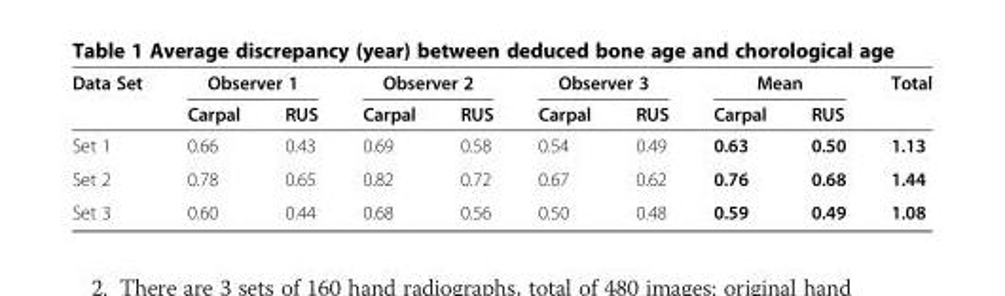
<table><thead><tr><td rowspan="2">Data Set</td><td colspan="2">Observer 1</td><td colspan="2">Observer 2</td><td colspan="2">Observer 3</td><td colspan="2">Mean</td><td rowspan="2">Total</td></tr><tr><td>Carpal</td><td>RUS</td><td>Carpal</td><td>RUS</td><td>Carpal</td><td>RUS</td><td>Carpal</td><td>RUS</td></tr></thead><tbody><tr><td>Set 1</td><td>0.66</td><td>0.43</td><td>0.69</td><td>0.58</td><td>0.54</td><td>0.49</td><td>0.63</td><td>0.50</td><td>1.13</td></tr><tr><td>Set 2</td><td>0.78</td><td>0.65</td><td>0.82</td><td>0.72</td><td>0.67</td><td>0.62</td><td>0.76</td><td>0.68</td><td>1.44</td></tr><tr><td>Set 3</td><td>0.60</td><td>0.44</td><td>0.68</td><td>0.56</td><td>0.50</td><td>0.48</td><td>0.59</td><td>0.49</td><td>1.08</td></tr></tbody></table>